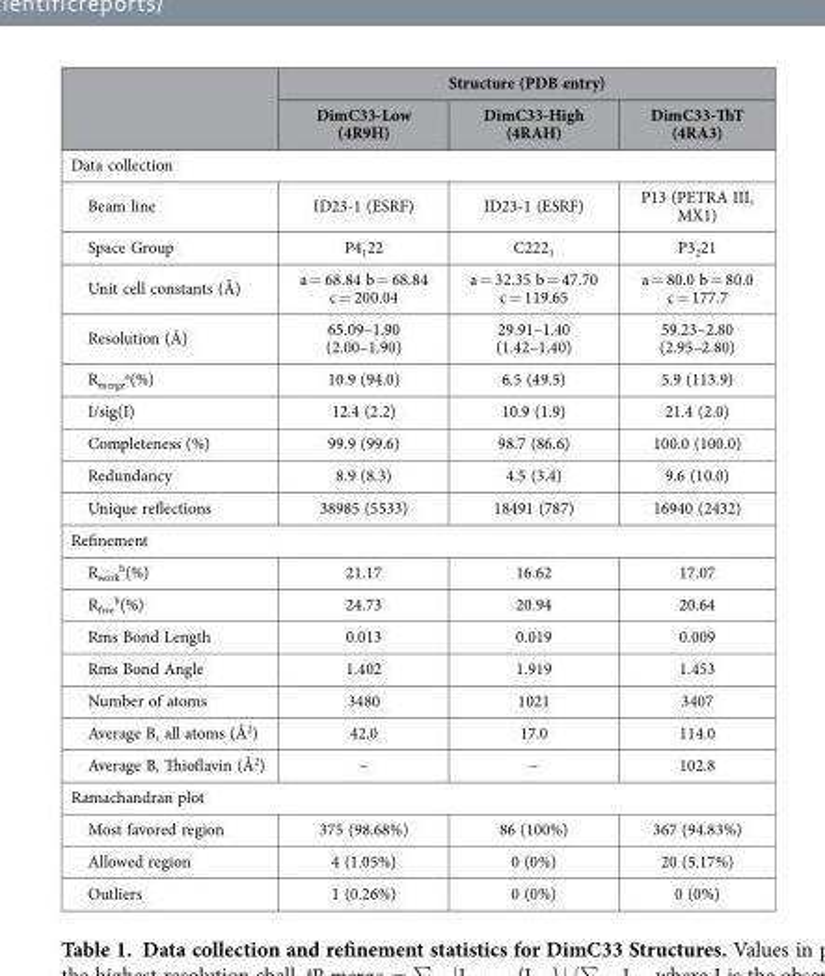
<table><thead><tr><td rowspan="2"></td><td colspan="3">Structure (PDB entry)</td></tr><tr><td>DimC33-Low (4R9H)</td><td>DimC33-High (4RAH)</td><td>DimC33-ThT (4RA3)</td></tr></thead><tbody><tr><td colspan="4">Data collection</td></tr><tr><td>Beam line</td><td>ID23-1 (ESRF)</td><td>ID23-1 (ESRF)</td><td>P13 (PETRA III, MX1)</td></tr><tr><td>Space Group</td><td>P4<sub>1</sub>22</td><td>C222<sub>1</sub></td><td>P3<sub>2</sub>21</td></tr><tr><td>Unit cell constants (Å)</td><td>a = 68.84 b = 68.84 c = 200.04</td><td>a = 32.35 b = 47.70 c = 119.65</td><td>a = 80.0 b = 80.0 c = 177.7</td></tr><tr><td>Resolution (Å)</td><td>65.09–1.90 (2.00–1.90)</td><td>29.91–1.40 (1.42–1.40)</td><td>59.23–2.80 (2.95–2.80)</td></tr><tr><td>R<sub>merge</sub> <sup>a</sup>(%)</td><td>10.9 (94.0)</td><td>6.5 (49.5)</td><td>5.9 (113.9)</td></tr><tr><td>I/sig(I)</td><td>12.4 (2.2)</td><td>10.9 (1.9)</td><td>21.4 (2.0)</td></tr><tr><td>Completeness (%)</td><td>99.9 (99.6)</td><td>98.7 (86.6)</td><td>100.0 (100.0)</td></tr><tr><td>Redundancy</td><td>8.9 (8.3)</td><td>4.5 (3.4)</td><td>9.6 (10.0)</td></tr><tr><td>Unique reflections</td><td>38985 (5533)</td><td>18491 (787)</td><td>16940 (2432)</td></tr><tr><td colspan="4">Refinement</td></tr><tr><td>R<sub>work</sub> <sup>b</sup>(%)</td><td>21.17</td><td>16.62</td><td>17.07</td></tr><tr><td>R<sub>free</sub> <sup>b</sup>(%)</td><td>24.73</td><td>20.94</td><td>20.64</td></tr><tr><td>Rms Bond Length</td><td>0.013</td><td>0.019</td><td>0.009</td></tr><tr><td>Rms Bond Angle</td><td>1.402</td><td>1.919</td><td>1.453</td></tr><tr><td>Number of atoms</td><td>3480</td><td>1021</td><td>3407</td></tr><tr><td>Average B, all atoms (Å<sup>2</sup>)</td><td>42.0</td><td>17.0</td><td>114.0</td></tr><tr><td>Average B, Thioflavin (Å<sup>2</sup>)</td><td>–</td><td>–</td><td>102.8</td></tr><tr><td colspan="4">Ramachandran plot</td></tr><tr><td>Most favored region</td><td>375 (98.68%)</td><td>86 (100%)</td><td>367 (94.83%)</td></tr><tr><td>Allowed region</td><td>4 (1.05%)</td><td>0 (0%)</td><td>20 (5.17%)</td></tr><tr><td>Outliers</td><td>1 (0.26%)</td><td>0 (0%)</td><td>0 (0%)</td></tr></tbody></table>